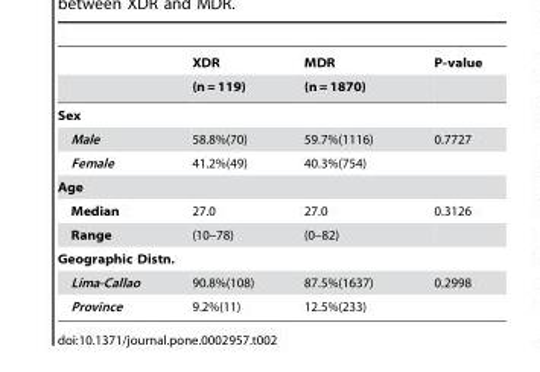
<table><thead><tr><td rowspan="2"></td><td rowspan="2">XDR (n = 119)</td><td rowspan="2">MDR (n = 1870)</td><td rowspan="2">P-value</td></tr><tr></tr></thead><tbody><tr><td colspan="4">Sex</td></tr><tr><td>Male</td><td>58.8%(70)</td><td>59.7%(1116)</td><td>0.7727</td></tr><tr><td>Female</td><td>41.2%(49)</td><td>40.3%(754)</td><td></td></tr><tr><td colspan="4">Age</td></tr><tr><td>Median</td><td>27.0</td><td>27.0</td><td>0.3126</td></tr><tr><td>Range</td><td>(10–78)</td><td>(0–82)</td><td></td></tr><tr><td colspan="4">Geographic Distn.</td></tr><tr><td>Lima-Callao</td><td>90.8%(108)</td><td>87.5%(1637)</td><td>0.2998</td></tr><tr><td>Province</td><td>9.2%(11)</td><td>12.5%(233)</td><td></td></tr></tbody></table>